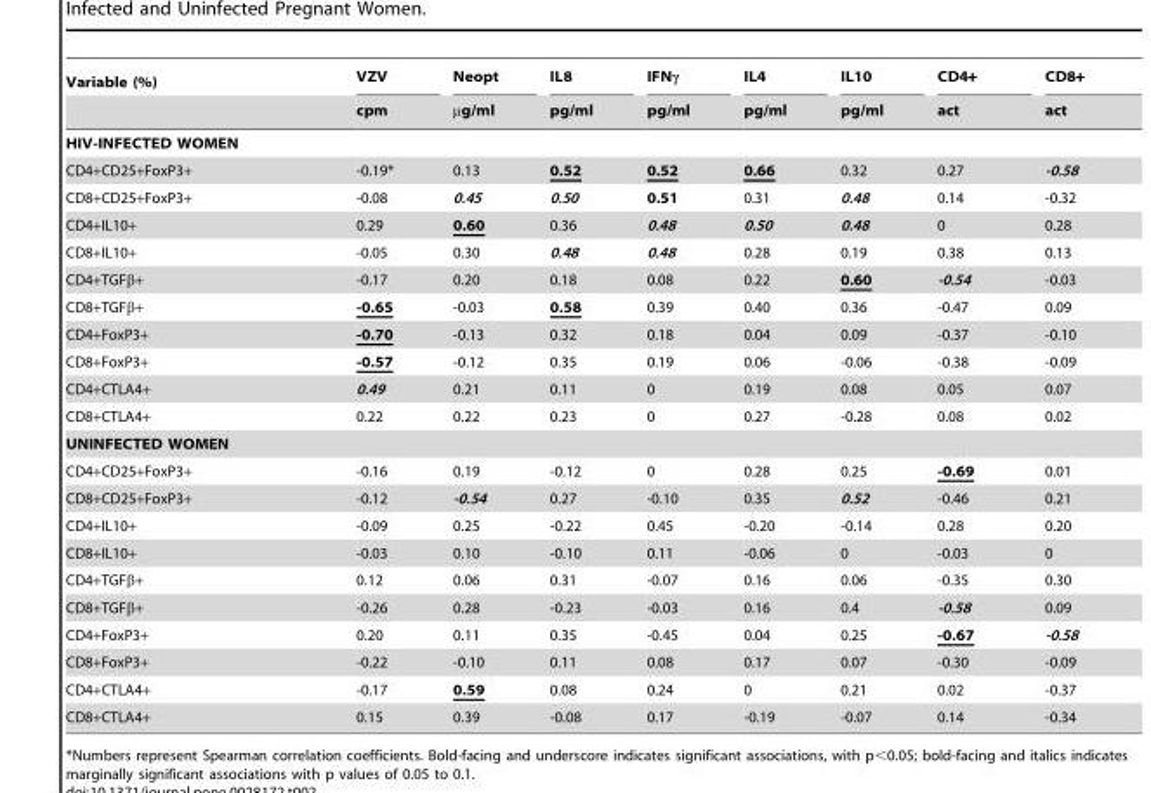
<table><thead><tr><td rowspan="2">Variable (%)</td><td rowspan="2">VZV cpm</td><td rowspan="2">Neopt µg/ml</td><td rowspan="2">IL8 pg/ml</td><td rowspan="2">IFNγ pg/ml</td><td rowspan="2">IL4 pg/ml</td><td rowspan="2">IL10 pg/ml</td><td rowspan="2">CD4+ act</td><td rowspan="2">CD8+ act</td></tr><tr></tr></thead><tbody><tr><td colspan="9">HIV-INFECTED WOMEN</td></tr><tr><td>CD4+CD25+FoxP3+</td><td>-0.19*</td><td>0.13</td><td>0.52</td><td>0.52</td><td>0.66</td><td>0.32</td><td>0.27</td><td>-0.58</td></tr><tr><td>CD8+CD25+FoxP3+</td><td>-0.08</td><td>0.45</td><td>0.50</td><td>0.51</td><td>0.31</td><td>0.48</td><td>0.14</td><td>-0.32</td></tr><tr><td>CD4+IL10+</td><td>0.29</td><td>0.60</td><td>0.36</td><td>0.48</td><td>0.50</td><td>0.48</td><td>0</td><td>0.28</td></tr><tr><td>CD8+IL10+</td><td>-0.05</td><td>0.30</td><td>0.48</td><td>0.48</td><td>0.28</td><td>0.19</td><td>0.38</td><td>0.13</td></tr><tr><td>CD4+TGFβ+</td><td>-0.17</td><td>0.20</td><td>0.18</td><td>0.08</td><td>0.22</td><td>0.60</td><td>-0.54</td><td>-0.03</td></tr><tr><td>CD8+TGFβ+</td><td>-0.65</td><td>-0.03</td><td>0.58</td><td>0.39</td><td>0.40</td><td>0.36</td><td>-0.47</td><td>0.09</td></tr><tr><td>CD4+FoxP3+</td><td>-0.70</td><td>-0.13</td><td>0.32</td><td>0.18</td><td>0.04</td><td>0.09</td><td>-0.37</td><td>-0.10</td></tr><tr><td>CD8+FoxP3+</td><td>-0.57</td><td>-0.12</td><td>0.35</td><td>0.19</td><td>0.06</td><td>-0.06</td><td>-0.38</td><td>-0.09</td></tr><tr><td>CD4+CTLA4+</td><td>0.49</td><td>0.21</td><td>0.11</td><td>0</td><td>0.19</td><td>0.08</td><td>0.05</td><td>0.07</td></tr><tr><td>CD8+CTLA4+</td><td>0.22</td><td>0.22</td><td>0.23</td><td>0</td><td>0.27</td><td>-0.28</td><td>0.08</td><td>0.02</td></tr><tr><td colspan="9">UNINFECTED WOMEN</td></tr><tr><td>CD4+CD25+FoxP3+</td><td>-0.16</td><td>0.19</td><td>-0.12</td><td>0</td><td>0.28</td><td>0.25</td><td>-0.69</td><td>0.01</td></tr><tr><td>CD8+CD25+FoxP3+</td><td>-0.12</td><td>-0.54</td><td>0.27</td><td>-0.10</td><td>0.35</td><td>0.52</td><td>-0.46</td><td>0.21</td></tr><tr><td>CD4+IL10+</td><td>-0.09</td><td>0.25</td><td>-0.22</td><td>0.45</td><td>-0.20</td><td>-0.14</td><td>0.28</td><td>0.20</td></tr><tr><td>CD8+IL10+</td><td>-0.03</td><td>0.10</td><td>-0.10</td><td>0.11</td><td>-0.06</td><td>0</td><td>-0.03</td><td>0</td></tr><tr><td>CD4+TGFβ+</td><td>0.12</td><td>0.06</td><td>0.31</td><td>-0.07</td><td>0.16</td><td>0.06</td><td>-0.35</td><td>0.30</td></tr><tr><td>CD8+TGFβ+</td><td>-0.26</td><td>0.28</td><td>-0.23</td><td>-0.03</td><td>0.16</td><td>0.4</td><td>-0.58</td><td>0.09</td></tr><tr><td>CD4+FoxP3+</td><td>0.20</td><td>0.11</td><td>0.35</td><td>-0.45</td><td>0.04</td><td>0.25</td><td>-0.67</td><td>-0.58</td></tr><tr><td>CD8+FoxP3+</td><td>-0.22</td><td>-0.10</td><td>0.11</td><td>0.08</td><td>0.17</td><td>0.07</td><td>-0.30</td><td>-0.09</td></tr><tr><td>CD4+CTLA4+</td><td>-0.17</td><td>0.59</td><td>0.08</td><td>0.24</td><td>0</td><td>0.21</td><td>0.02</td><td>-0.37</td></tr><tr><td>CD8+CTLA4+</td><td>0.15</td><td>0.39</td><td>-0.08</td><td>0.17</td><td>-0.19</td><td>-0.07</td><td>0.14</td><td>-0.34</td></tr></tbody></table>